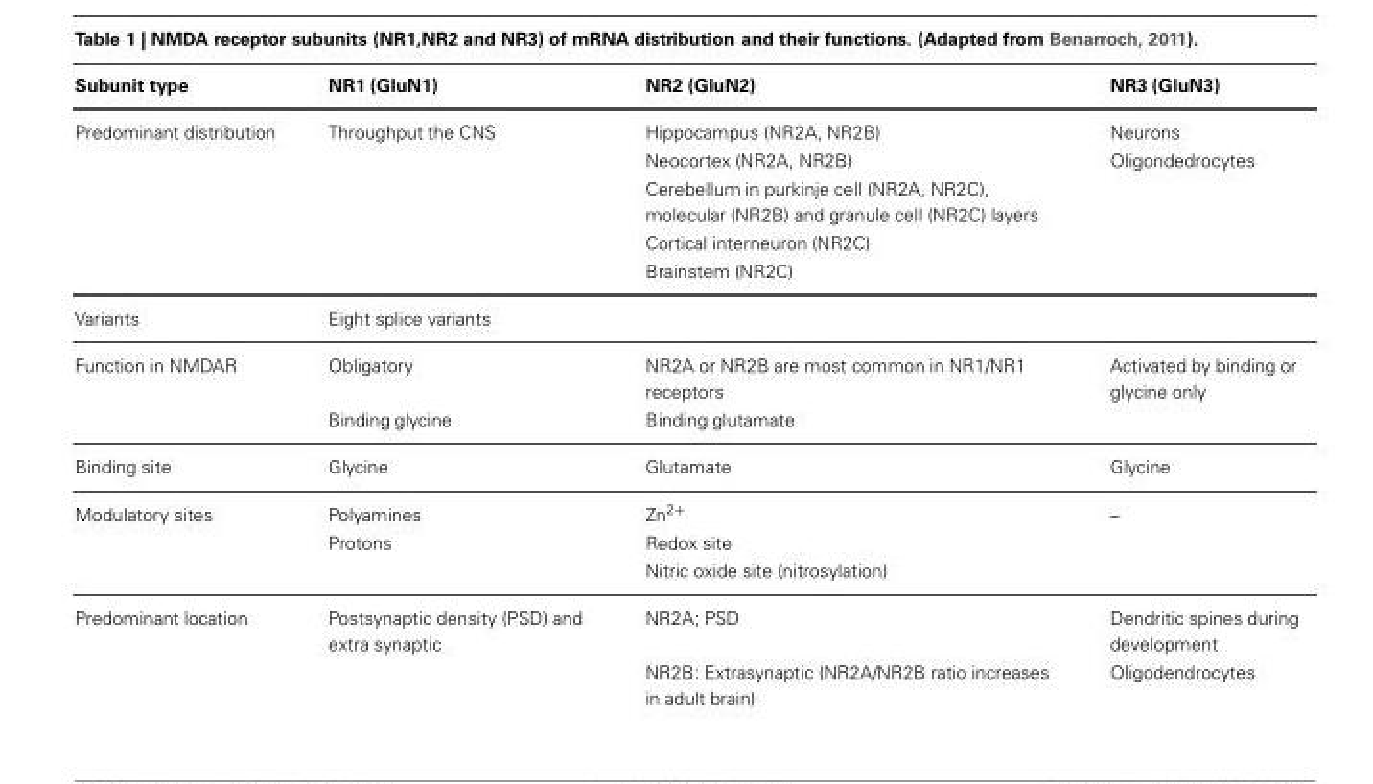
<table><thead><tr><td>Subunit type</td><td>NR1 (GluN1)</td><td>NR2 (GluN2)</td><td>NR3 (GluN3)</td></tr></thead><tbody><tr><td rowspan="5">Predominant distribution</td><td>Throughput the CNS</td><td>Hippocampus (NR2A, NR2B)</td><td>Neurons</td></tr><tr><td></td><td>Neocortex (NR2A, NR2B)</td><td>Oligondedrocytes</td></tr><tr><td></td><td>Cerebellum in purkinje cell (NR2A, NR2C), molecular (NR2B) and granule cell (NR2C) layers</td><td></td></tr><tr><td></td><td>Cortical interneuron (NR2C)</td><td></td></tr><tr><td></td><td>Brainstem (NR2C)</td><td></td></tr><tr><td>Variants</td><td>Eight splice variants</td><td></td><td></td></tr><tr><td rowspan="2">Function in NMDAR</td><td>Obligatory</td><td>NR2A or NR2B are most common in NR1/NR1 receptors</td><td>Activated by binding or glycine only</td></tr><tr><td>Binding glycine</td><td>Binding glutamate</td><td></td></tr><tr><td>Binding site</td><td>Glycine</td><td>Glutamate</td><td>Glycine</td></tr><tr><td rowspan="3">Modulatory sites</td><td>Polyamines</td><td>Zn<sup>2+</sup></td><td>–</td></tr><tr><td>Protons</td><td>Redox site</td><td></td></tr><tr><td></td><td>Nitric oxide site (nitrosylation)</td><td></td></tr><tr><td rowspan="2">Predominant location</td><td>Postsynaptic density (PSD) and extra synaptic</td><td>NR2A; PSD</td><td>Dendritic spines during development</td></tr><tr><td></td><td>NR2B: Extrasynaptic (NR2A/NR2B ratio increases in adult brain)</td><td>Oligodendrocytes</td></tr></tbody></table>